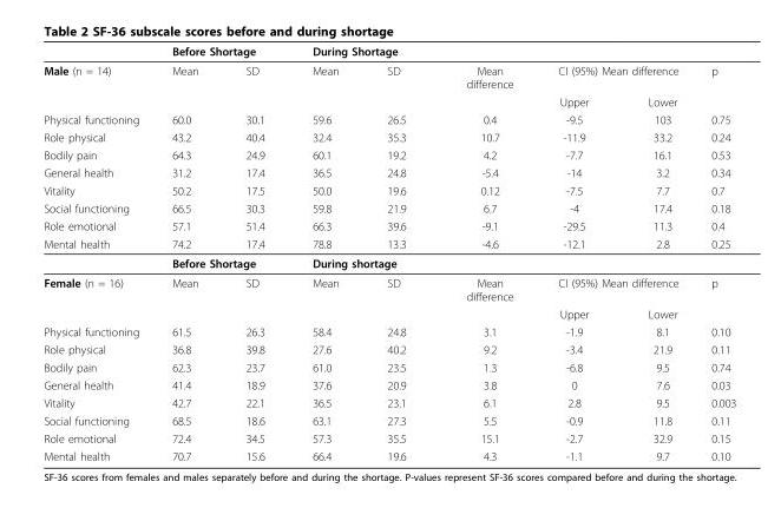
<table><thead><tr><td rowspan="2">Male (n = 14)</td><td colspan="2">Before Shortage</td><td colspan="2">During Shortage</td><td rowspan="2">Mean difference</td><td></td><td></td><td rowspan="2">p</td></tr><tr><td>Mean</td><td>SD</td><td>Mean</td><td>SD</td><td colspan="2">CI (95%) Mean difference</td></tr></thead><tbody><tr><td></td><td></td><td></td><td></td><td></td><td></td><td>Upper</td><td>Lower</td><td></td></tr><tr><td>Physical functioning</td><td>60.0</td><td>30.1</td><td>59.6</td><td>26.5</td><td>0.4</td><td>-9.5</td><td>103</td><td>0.75</td></tr><tr><td>Role physical</td><td>43.2</td><td>40.4</td><td>32.4</td><td>35.3</td><td>10.7</td><td>-11.9</td><td>33.2</td><td>0.24</td></tr><tr><td>Bodily pain</td><td>64.3</td><td>24.9</td><td>60.1</td><td>19.2</td><td>4.2</td><td>-7.7</td><td>16.1</td><td>0.53</td></tr><tr><td>General health</td><td>31.2</td><td>17.4</td><td>36.5</td><td>24.8</td><td>-5.4</td><td>-14</td><td>3.2</td><td>0.34</td></tr><tr><td>Vitality</td><td>50.2</td><td>17.5</td><td>50.0</td><td>19.6</td><td>0.12</td><td>-7.5</td><td>7.7</td><td>0.7</td></tr><tr><td>Social functioning</td><td>66.5</td><td>30.3</td><td>59.8</td><td>21.9</td><td>6.7</td><td>-4</td><td>17.4</td><td>0.18</td></tr><tr><td>Role emotional</td><td>57.1</td><td>51.4</td><td>66.3</td><td>39.6</td><td>-9.1</td><td>-29.5</td><td>11.3</td><td>0.4</td></tr><tr><td rowspan="2">Mental health</td><td>74.2</td><td>17.4</td><td>78.8</td><td>13.3</td><td>-4.6</td><td>-12.1</td><td>2.8</td><td>0.25</td></tr><tr><td colspan="2">Before Shortage</td><td colspan="2">During shortage</td><td></td><td></td><td></td><td></td></tr><tr><td rowspan="2">Female (n = 16)</td><td>Mean</td><td>SD</td><td>Mean</td><td>SD</td><td>Mean difference</td><td colspan="2">CI (95%) Mean difference</td><td>p</td></tr><tr><td></td><td></td><td></td><td></td><td></td><td>Upper</td><td>Lower</td><td></td></tr><tr><td>Physical functioning</td><td>61.5</td><td>26.3</td><td>58.4</td><td>24.8</td><td>3.1</td><td>-1.9</td><td>8.1</td><td>0.10</td></tr><tr><td>Role physical</td><td>36.8</td><td>39.8</td><td>27.6</td><td>40.2</td><td>9.2</td><td>-3.4</td><td>21.9</td><td>0.11</td></tr><tr><td>Bodily pain</td><td>62.3</td><td>23.7</td><td>61.0</td><td>23.5</td><td>1.3</td><td>-6.8</td><td>9.5</td><td>0.74</td></tr><tr><td>General health</td><td>41.4</td><td>18.9</td><td>37.6</td><td>20.9</td><td>3.8</td><td>0</td><td>7.6</td><td>0.03</td></tr><tr><td>Vitality</td><td>42.7</td><td>22.1</td><td>36.5</td><td>23.1</td><td>6.1</td><td>2.8</td><td>9.5</td><td>0.003</td></tr><tr><td>Social functioning</td><td>68.5</td><td>18.6</td><td>63.1</td><td>27.3</td><td>5.5</td><td>-0.9</td><td>11.8</td><td>0.11</td></tr><tr><td>Role emotional</td><td>72.4</td><td>34.5</td><td>57.3</td><td>35.5</td><td>15.1</td><td>-2.7</td><td>32.9</td><td>0.15</td></tr><tr><td>Mental health</td><td>70.7</td><td>15.6</td><td>66.4</td><td>19.6</td><td>4.3</td><td>-1.1</td><td>9.7</td><td>0.10</td></tr></tbody></table>